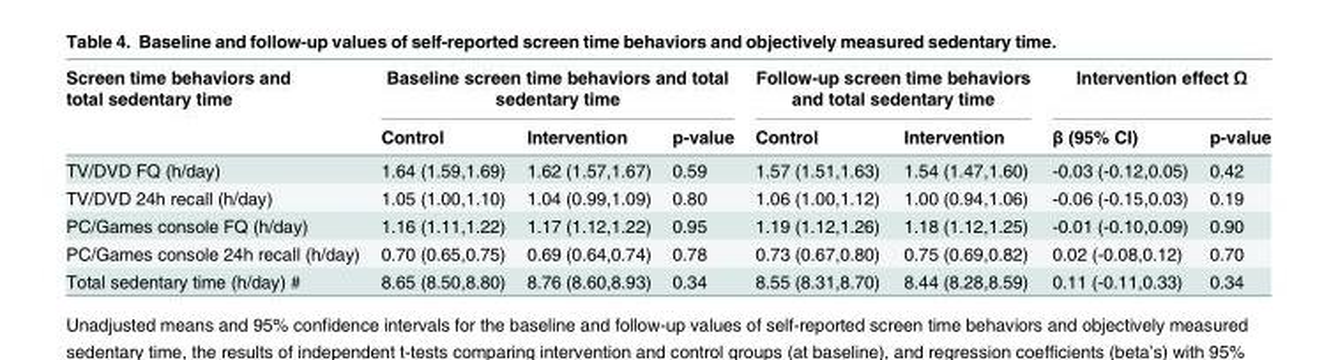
<table><thead><tr><td rowspan="2">Screen time behaviors and total sedentary time</td><td colspan="3">Baseline screen time behaviors and total sedentary time</td><td colspan="2">Follow-up screen time behaviors and total sedentary time</td><td colspan="2">Intervention effect Ω</td></tr><tr><td>Control</td><td>Intervention</td><td>p-value</td><td>Control</td><td>Intervention</td><td>β (95% CI)</td><td>p-value</td></tr></thead><tbody><tr><td>TV/DVD FQ (h/day)</td><td>1.64 (1.59,1.69)</td><td>1.62 (1.57,1.67)</td><td>0.59</td><td>1.57 (1.51,1.63)</td><td>1.54 (1.47,1.60)</td><td>-0.03 (-0.12,0.05)</td><td>0.42</td></tr><tr><td>TV/DVD 24h recall (h/day)</td><td>1.05 (1.00,1.10)</td><td>1.04 (0.99,1.09)</td><td>0.80</td><td>1.06 (1.00,1.12)</td><td>1.00 (0.94,1.06)</td><td>-0.06 (-0.15,0.03)</td><td>0.19</td></tr><tr><td>PC/Games console FQ (h/day)</td><td>1.16 (1.11,1.22)</td><td>1.17 (1.12,1.22)</td><td>0.95</td><td>1.19 (1.12,1.26)</td><td>1.18 (1.12,1.25)</td><td>-0.01 (-0.10,0.09)</td><td>0.90</td></tr><tr><td>PC/Games console 24h recall (h/day)</td><td>0.70 (0.65,0.75)</td><td>0.69 (0.64,0.74)</td><td>0.78</td><td>0.73 (0.67,0.80)</td><td>0.75 (0.69,0.82)</td><td>0.02 (-0.08,0.12)</td><td>0.70</td></tr><tr><td>Total sedentary time (h/day) #</td><td>8.65 (8.50,8.80)</td><td>8.76 (8.60,8.93)</td><td>0.34</td><td>8.55 (8.31,8.70)</td><td>8.44 (8.28,8.59)</td><td>0.11 (-0.11,0.33)</td><td>0.34</td></tr></tbody></table>